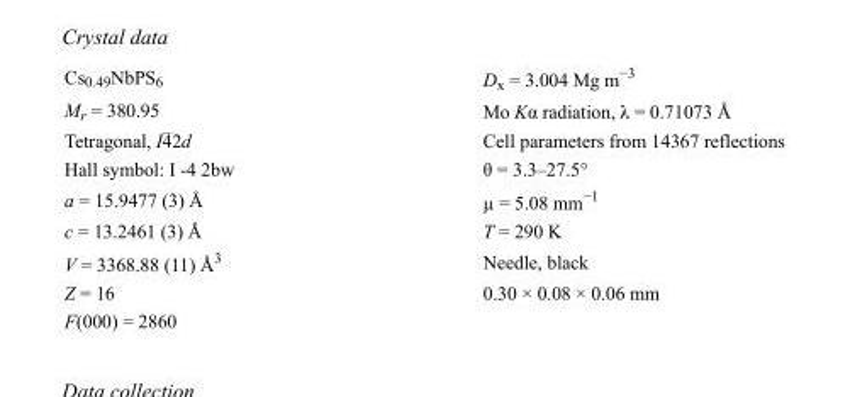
<table><tbody><tr><td>Cs<sub>0.49</sub>NbPS<sub>6</sub></td><td>D<sub>x</sub> = 3.004 Mg m<sup>−3</sup></td></tr><tr><td>M<sub>r</sub> = 380.95</td><td>Mo Kα radiation, λ = 0.71073 Å</td></tr><tr><td>Tetragonal, I42d</td><td>Cell parameters from 14367 reflections</td></tr><tr><td>Hall symbol: I -4 2bw</td><td>θ = 3.3–27.5°</td></tr><tr><td>a = 15.9477 (3) Å</td><td>µ = 5.08 mm<sup>−1</sup></td></tr><tr><td>c = 13.2461 (3) Å</td><td>T = 290 K</td></tr><tr><td>V = 3368.88 (11) Å<sup>3</sup></td><td>Needle, black</td></tr><tr><td>Z = 16</td><td>0.30 × 0.08 × 0.06 mm</td></tr><tr><td>F(000) = 2860</td><td></td></tr></tbody></table>